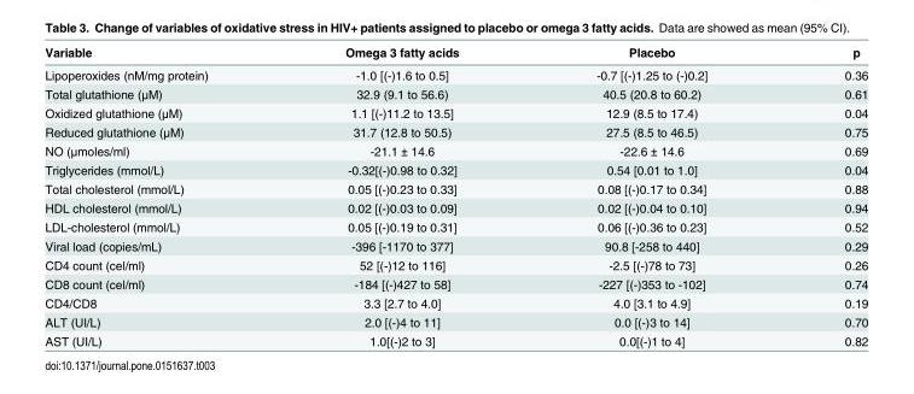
<table><thead><tr><td>Variable</td><td>Omega 3 fatty acids</td><td>Placebo</td><td>p</td></tr></thead><tbody><tr><td>Lipoperoxides (nM/mg protein)</td><td>-1.0 [(-)1.6 to 0.5]</td><td>-0.7 [(-)1.25 to (-)0.2]</td><td>0.36</td></tr><tr><td>Total glutathione (μM)</td><td>32.9 (9.1 to 56.6)</td><td>40.5 (20.8 to 60.2)</td><td>0.61</td></tr><tr><td>Oxidized glutathione (μM)</td><td>1.1 [(-)11.2 to 13.5]</td><td>12.9 (8.5 to 17.4)</td><td>0.04</td></tr><tr><td>Reduced glutathione (μM)</td><td>31.7 (12.8 to 50.5)</td><td>27.5 (8.5 to 46.5)</td><td>0.75</td></tr><tr><td>NO (μmoles/ml)</td><td>-21.1 ± 14.6</td><td>-22.6 ± 14.6</td><td>0.69</td></tr><tr><td>Triglycerides (mmol/L)</td><td>-0.32[(-)0.98 to 0.32]</td><td>0.54 [0.01 to 1.0]</td><td>0.04</td></tr><tr><td>Total cholesterol (mmol/L)</td><td>0.05 [(-)0.23 to 0.33]</td><td>0.08 [(-)0.17 to 0.34]</td><td>0.88</td></tr><tr><td>HDL cholesterol (mmol/L)</td><td>0.02 [(-)0.03 to 0.09]</td><td>0.02 [(-)0.04 to 0.10]</td><td>0.94</td></tr><tr><td>LDL-cholesterol (mmol/L)</td><td>0.05 [(-)0.19 to 0.31]</td><td>0.06 [(-)0.36 to 0.23]</td><td>0.52</td></tr><tr><td>Viral load (copies/mL)</td><td>-396 [-1170 to 377]</td><td>90.8 [-258 to 440]</td><td>0.29</td></tr><tr><td>CD4 count (cel/ml)</td><td>52 [(-)12 to 116]</td><td>-2.5 [(-)78 to 73]</td><td>0.26</td></tr><tr><td>CD8 count (cel/ml)</td><td>-184 [(-)427 to 58]</td><td>-227 [(-)353 to -102]</td><td>0.74</td></tr><tr><td>CD4/CD8</td><td>3.3 [2.7 to 4.0]</td><td>4.0 [3.1 to 4.9]</td><td>0.19</td></tr><tr><td>ALT (UI/L)</td><td>2.0 [(-)4 to 11]</td><td>0.0 [(-)3 to 14]</td><td>0.70</td></tr><tr><td>AST (UI/L)</td><td>1.0[(-)2 to 3]</td><td>0.0[(-)1 to 4]</td><td>0.82</td></tr></tbody></table>